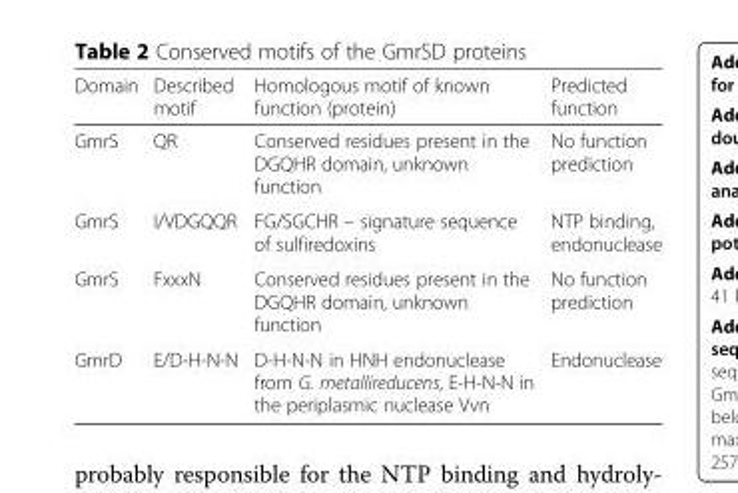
<table><thead><tr><td>Domain</td><td>Described motif</td><td>Homologous motif of known function (protein)</td><td>Predicted function</td></tr></thead><tbody><tr><td>GmrS</td><td>QR</td><td>Conserved residues present in the DGQHR domain, unknown function</td><td>No function prediction</td></tr><tr><td>GmrS</td><td>I/VDGQQR</td><td>FG/SGCHR – signature sequence of sulfiredoxins</td><td>NTP binding, endonuclease</td></tr><tr><td>GmrS</td><td>FxxxN</td><td>Conserved residues present in the DGQHR domain, unknown function</td><td>No function prediction</td></tr><tr><td>GmrD</td><td>E/D-H-N-N</td><td>D-H-N-N in HNH endonuclease from G. metallireducens, E-H-N-N in the periplasmic nuclease Vvn</td><td>Endonuclease</td></tr></tbody></table>